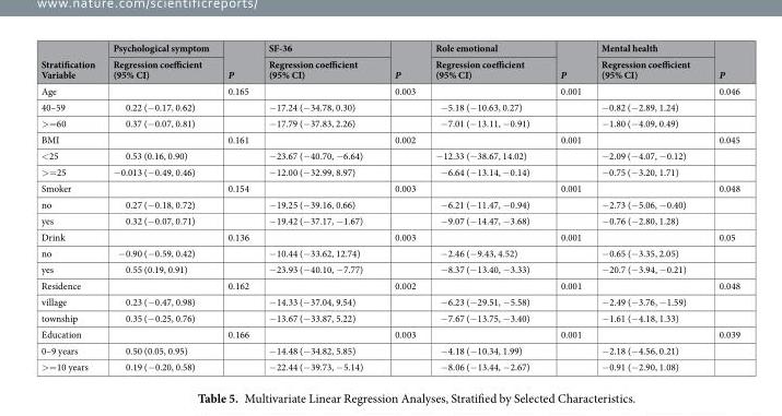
<table><thead><tr><td rowspan="2">Stratification Variable</td><td rowspan="2">Psychological symptom Regression coefficient (95% CI)</td><td rowspan="2">P</td><td rowspan="2">SF-36 Regression coefficient (95% CI)</td><td rowspan="2">P</td><td rowspan="2">Role emotional Regression coefficient (95% CI)</td><td rowspan="2">P</td><td rowspan="2">Mental health Regression coefficient (95% CI)</td><td rowspan="2">P</td></tr><tr></tr></thead><tbody><tr><td>Age</td><td></td><td>0.165</td><td></td><td>0.003</td><td></td><td>0.001</td><td></td><td>0.046</td></tr><tr><td>40–59</td><td>0.22 (−0.17, 0.62)</td><td></td><td>−17.24 (−34.78, 0.30)</td><td></td><td>−5.18 (−10.63, 0.27)</td><td></td><td>−0.82 (−2.89, 1.24)</td><td></td></tr><tr><td>&gt;=60</td><td>0.37 (−0.07, 0.81)</td><td></td><td>−17.79 (−37.83, 2.26)</td><td></td><td>−7.01 (−13.11, −0.91)</td><td></td><td>−1.80 (−4.09, 0.49)</td><td></td></tr><tr><td>BMI</td><td></td><td>0.161</td><td></td><td>0.002</td><td></td><td>0.001</td><td></td><td>0.045</td></tr><tr><td>&lt;25</td><td>0.53 (0.16, 0.90)</td><td></td><td>−23.67 (−40.70, −6.64)</td><td></td><td>−12.33 (−38.67, 14.02)</td><td></td><td>−2.09 (−4.07, −0.12)</td><td></td></tr><tr><td>&gt;=25</td><td>−0.013 (−0.49, 0.46)</td><td></td><td>−12.00 (−32.99, 8.97)</td><td></td><td>−6.64 (−13.14, −0.14)</td><td></td><td>−0.75 (−3.20, 1.71)</td><td></td></tr><tr><td>Smoker</td><td></td><td>0.154</td><td></td><td>0.003</td><td></td><td>0.001</td><td></td><td>0.048</td></tr><tr><td>no</td><td>0.27 (−0.18, 0.72)</td><td></td><td>−19.25 (−39.16, 0.66)</td><td></td><td>−6.21 (−11.47, −0.94)</td><td></td><td>−2.73 (−5.06, −0.40)</td><td></td></tr><tr><td>yes</td><td>0.32 (−0.07, 0.71)</td><td></td><td>−19.42 (−37.17, −1.67)</td><td></td><td>−9.07 (−14.47, −3.68)</td><td></td><td>−0.76 (−2.80, 1.28)</td><td></td></tr><tr><td>Drink</td><td></td><td>0.136</td><td></td><td>0.003</td><td></td><td>0.001</td><td></td><td>0.05</td></tr><tr><td>no</td><td>−0.90 (−0.59, 0.42)</td><td></td><td>−10.44 (−33.62, 12.74)</td><td></td><td>−2.46 (−9.43, 4.52)</td><td></td><td>−0.65 (−3.35, 2.05)</td><td></td></tr><tr><td>yes</td><td>0.55 (0.19, 0.91)</td><td></td><td>−23.93 (−40.10, −7.77)</td><td></td><td>−8.37 (−13.40, −3.33)</td><td></td><td>−20.7 (−3.94, −0.21)</td><td></td></tr><tr><td>Residence</td><td></td><td>0.162</td><td></td><td>0.002</td><td></td><td>0.001</td><td></td><td>0.048</td></tr><tr><td>village</td><td>0.23 (−0.47, 0.98)</td><td></td><td>−14.33 (−37.04, 9.54)</td><td></td><td>−6.23 (−29.51, −5.58)</td><td></td><td>−2.49 (−3.76, −1.59)</td><td></td></tr><tr><td>township</td><td>0.35 (−0.25, 0.76)</td><td></td><td>−13.67 (−33.87, 5.22)</td><td></td><td>−7.67 (−13.75, −3.40)</td><td></td><td>−1.61 (−4.18, 1.33)</td><td></td></tr><tr><td>Education</td><td></td><td>0.166</td><td></td><td>0.003</td><td></td><td>0.001</td><td></td><td>0.039</td></tr><tr><td>0–9 years</td><td>0.50 (0.05, 0.95)</td><td></td><td>−14.48 (−34.82, 5.85)</td><td></td><td>−4.18 (−10.34, 1.99)</td><td></td><td>−2.18 (−4.56, 0.21)</td><td></td></tr><tr><td>&gt;=10 years</td><td>0.19 (−0.20, 0.58)</td><td></td><td>−22.44 (−39.73, −5.14)</td><td></td><td>−8.06 (−13.44, −2.67)</td><td></td><td>−0.91 (−2.90, 1.08)</td><td></td></tr></tbody></table>